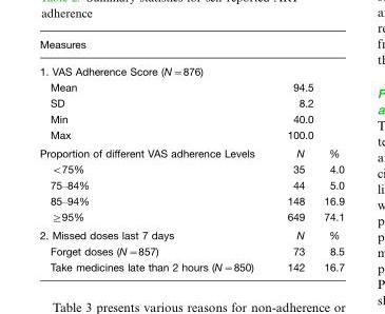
<table><thead><tr><td>Measures</td><td></td><td></td></tr></thead><tbody><tr><td colspan="3">1. VAS Adherence Score (N=876)</td></tr><tr><td>Mean</td><td>94.5</td><td></td></tr><tr><td>SD</td><td>8.2</td><td></td></tr><tr><td>Min</td><td>40.0</td><td></td></tr><tr><td>Max</td><td>100.0</td><td></td></tr><tr><td>Proportion of different VAS adherence Levels</td><td>N</td><td>%</td></tr><tr><td>&lt;75%</td><td>35</td><td>4.0</td></tr><tr><td>75–84%</td><td>44</td><td>5.0</td></tr><tr><td>85–94%</td><td>148</td><td>16.9</td></tr><tr><td>≥95%</td><td>649</td><td>74.1</td></tr><tr><td>2. Missed doses last 7 days</td><td>N</td><td>%</td></tr><tr><td>Forget doses (N=857)</td><td>73</td><td>8.5</td></tr><tr><td>Take medicines late than 2 hours (N=850)</td><td>142</td><td>16.7</td></tr></tbody></table>